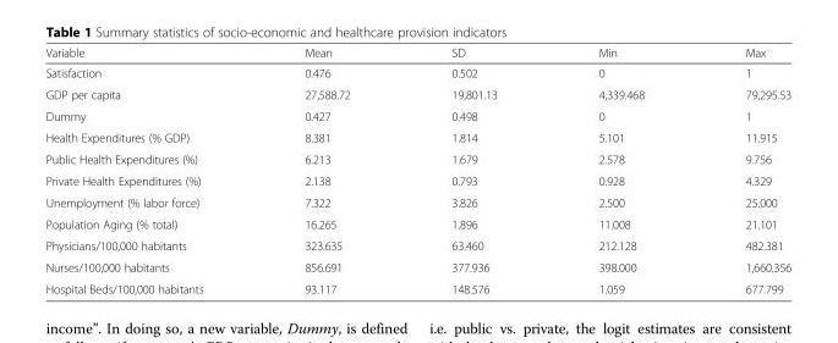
<table><thead><tr><td>Variable</td><td>Mean</td><td>SD</td><td>Min</td><td>Max</td></tr></thead><tbody><tr><td>Satisfaction</td><td>0.476</td><td>0.502</td><td>0</td><td>1</td></tr><tr><td>GDP per capita</td><td>27,588.72</td><td>19,801.13</td><td>4,339.468</td><td>79,295.53</td></tr><tr><td>Dummy</td><td>0.427</td><td>0.498</td><td>0</td><td>1</td></tr><tr><td>Health Expenditures (% GDP)</td><td>8.381</td><td>1.814</td><td>5.101</td><td>11.915</td></tr><tr><td>Public Health Expenditures (%)</td><td>6.213</td><td>1.679</td><td>2.578</td><td>9.756</td></tr><tr><td>Private Health Expenditures (%)</td><td>2.138</td><td>0.793</td><td>0.928</td><td>4.329</td></tr><tr><td>Unemployment (% labor force)</td><td>7.322</td><td>3.826</td><td>2.500</td><td>25.000</td></tr><tr><td>Population Aging (% total)</td><td>16.265</td><td>1.896</td><td>11.008</td><td>21.101</td></tr><tr><td>Physicians/100,000 habitants</td><td>323.635</td><td>63.460</td><td>212.128</td><td>482.381</td></tr><tr><td>Nurses/100,000 habitants</td><td>856.691</td><td>377.936</td><td>398.000</td><td>1,660.356</td></tr><tr><td>Hospital Beds/100,000 habitants</td><td>93.117</td><td>148.576</td><td>1.059</td><td>677.799</td></tr></tbody></table>